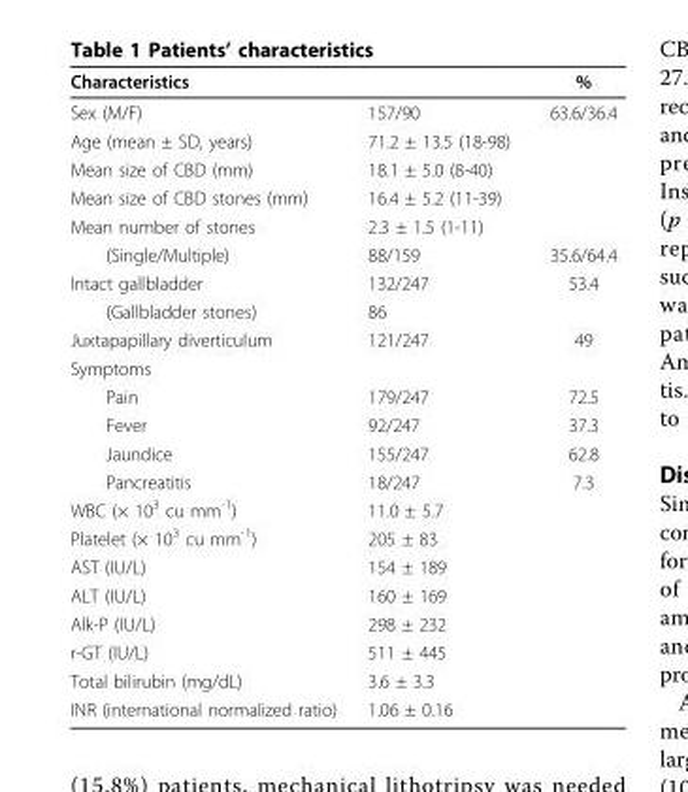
<table><thead><tr><td>Characteristics</td><td></td><td>%</td></tr></thead><tbody><tr><td>Sex (M/F)</td><td>157/90</td><td>63.6/36.4</td></tr><tr><td>Age (mean ± SD, years)</td><td>71.2 ± 13.5 (18-98)</td><td></td></tr><tr><td>Mean size of CBD (mm)</td><td>18.1 ± 5.0 (8-40)</td><td></td></tr><tr><td>Mean size of CBD stones (mm)</td><td>16.4 ± 5.2 (11-39)</td><td></td></tr><tr><td>Mean number of stones</td><td>2.3 ± 1.5 (1-11)</td><td></td></tr><tr><td>(Single/Multiple)</td><td>88/159</td><td>35.6/64.4</td></tr><tr><td>Intact gallbladder</td><td>132/247</td><td>53.4</td></tr><tr><td>(Gallbladder stones)</td><td>86</td><td></td></tr><tr><td>Juxtapapillary diverticulum</td><td>121/247</td><td>49</td></tr><tr><td colspan="3">Symptoms</td></tr><tr><td>Pain</td><td>179/247</td><td>72.5</td></tr><tr><td>Fever</td><td>92/247</td><td>37.3</td></tr><tr><td>Jaundice</td><td>155/247</td><td>62.8</td></tr><tr><td>Pancreatitis</td><td>18/247</td><td>7.3</td></tr><tr><td>WBC (× 10<sup>3</sup> cu mm<sup>-1</sup>)</td><td>11.0 ± 5.7</td><td></td></tr><tr><td>Platelet (× 10<sup>3</sup> cu mm<sup>-1</sup>)</td><td>205 ± 83</td><td></td></tr><tr><td>AST (IU/L)</td><td>154 ± 189</td><td></td></tr><tr><td>ALT (IU/L)</td><td>160 ± 169</td><td></td></tr><tr><td>Alk-P (IU/L)</td><td>298 ± 232</td><td></td></tr><tr><td>r-GT (IU/L)</td><td>511 ± 445</td><td></td></tr><tr><td>Total bilirubin (mg/dL)</td><td>3.6 ± 3.3</td><td></td></tr><tr><td>INR (international normalized ratio)</td><td>1.06 ± 0.16</td><td></td></tr></tbody></table>